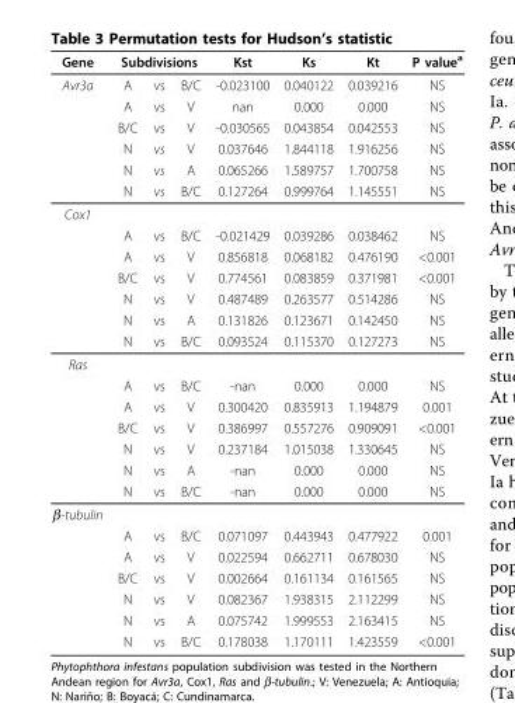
<table><thead><tr><td rowspan="2">Gene Avr3a</td><td colspan="3">Subdivisions</td><td rowspan="2">Kst -0.023100</td><td rowspan="2">Ks 0.040122</td><td rowspan="2">Kt 0.039216</td><td rowspan="2">P value<sup>a</sup> NS</td></tr><tr><td>A</td><td>vs</td><td>B/C</td></tr></thead><tbody><tr><td></td><td>A</td><td>vs</td><td>V</td><td>nan</td><td>0.000</td><td>0.000</td><td>NS</td></tr><tr><td></td><td>B/C</td><td>vs</td><td>V</td><td>-0.030565</td><td>0.043854</td><td>0.042553</td><td>NS</td></tr><tr><td></td><td>N</td><td>vs</td><td>V</td><td>0.037646</td><td>1.844118</td><td>1.916256</td><td>NS</td></tr><tr><td></td><td>N</td><td>vs</td><td>A</td><td>0.065266</td><td>1.589757</td><td>1.700758</td><td>NS</td></tr><tr><td></td><td>N</td><td>vs</td><td>B/C</td><td>0.127264</td><td>0.999764</td><td>1.145551</td><td>NS</td></tr><tr><td colspan="8">Cox1</td></tr><tr><td></td><td>A</td><td>vs</td><td>B/C</td><td>-0.021429</td><td>0.039286</td><td>0.038462</td><td>NS</td></tr><tr><td></td><td>A</td><td>vs</td><td>V</td><td>0.856818</td><td>0.068182</td><td>0.476190</td><td>&lt;0.001</td></tr><tr><td></td><td>B/C</td><td>vs</td><td>V</td><td>0.774561</td><td>0.083859</td><td>0.371981</td><td>&lt;0.001</td></tr><tr><td></td><td>N</td><td>vs</td><td>V</td><td>0.487489</td><td>0.263577</td><td>0.514286</td><td>NS</td></tr><tr><td></td><td>N</td><td>vs</td><td>A</td><td>0.131826</td><td>0.123671</td><td>0.142450</td><td>NS</td></tr><tr><td></td><td>N</td><td>vs</td><td>B/C</td><td>0.093524</td><td>0.115370</td><td>0.127273</td><td>NS</td></tr><tr><td colspan="8">Ras</td></tr><tr><td></td><td>A</td><td>vs</td><td>B/C</td><td>-nan</td><td>0.000</td><td>0.000</td><td>NS</td></tr><tr><td></td><td>A</td><td>vs</td><td>V</td><td>0.300420</td><td>0.835913</td><td>1.194879</td><td>0.001</td></tr><tr><td></td><td>B/C</td><td>vs</td><td>V</td><td>0.386997</td><td>0.557276</td><td>0.909091</td><td>&lt;0.001</td></tr><tr><td></td><td>N</td><td>vs</td><td>V</td><td>0.237184</td><td>1.015038</td><td>1.330645</td><td>NS</td></tr><tr><td></td><td>N</td><td>vs</td><td>A</td><td>-nan</td><td>0.000</td><td>0.000</td><td>NS</td></tr><tr><td></td><td>N</td><td>vs</td><td>B/C</td><td>-nan</td><td>0.000</td><td>0.000</td><td>NS</td></tr><tr><td colspan="8">β-tubulin</td></tr><tr><td></td><td>A</td><td>vs</td><td>B/C</td><td>0.071097</td><td>0.443943</td><td>0.477922</td><td>0.001</td></tr><tr><td></td><td>A</td><td>vs</td><td>V</td><td>0.022594</td><td>0.662711</td><td>0.678030</td><td>NS</td></tr><tr><td></td><td>B/C</td><td>vs</td><td>V</td><td>0.002664</td><td>0.161134</td><td>0.161565</td><td>NS</td></tr><tr><td></td><td>N</td><td>vs</td><td>V</td><td>0.082367</td><td>1.938315</td><td>2.112299</td><td>NS</td></tr><tr><td></td><td>N</td><td>vs</td><td>A</td><td>0.075742</td><td>1.999553</td><td>2.163415</td><td>NS</td></tr><tr><td></td><td>N</td><td>vs</td><td>B/C</td><td>0.178038</td><td>1.170111</td><td>1.423559</td><td>&lt;0.001</td></tr></tbody></table>